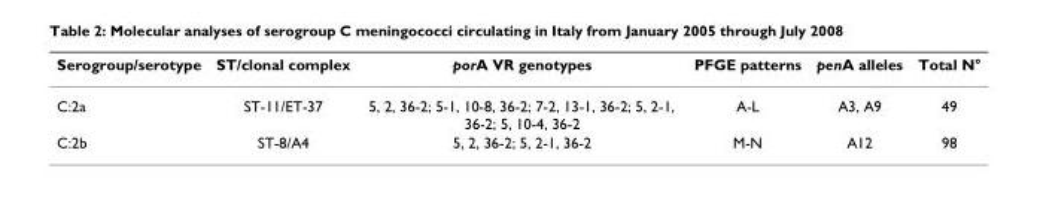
<table><thead><tr><td>Serogroup/serotype</td><td>ST/clonal complex</td><td>porA VR genotypes</td><td>PFGE patterns</td><td>penA alleles</td><td>Total N°</td></tr></thead><tbody><tr><td>C:2a</td><td>ST-11/ET-37</td><td>5, 2, 36-2; 5-1, 10-8, 36-2; 7-2, 13-1, 36-2; 5, 2-1, 36-2; 5, 10-4, 36-2</td><td>A-L</td><td>A3, A9</td><td>49</td></tr><tr><td>C:2b</td><td>ST-8/A4</td><td>5, 2, 36-2; 5, 2-1, 36-2</td><td>M-N</td><td>A12</td><td>98</td></tr></tbody></table>